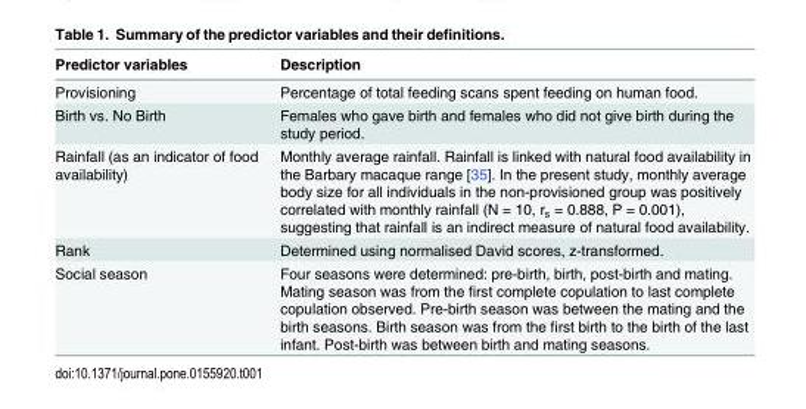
<table><thead><tr><td>Predictor variables</td><td>Description</td></tr></thead><tbody><tr><td>Provisioning</td><td>Percentage of total feeding scans spent feeding on human food.</td></tr><tr><td>Birth vs. No Birth</td><td>Females who gave birth and females who did not give birth during the study period.</td></tr><tr><td>Rainfall (as an indicator of food availability)</td><td>Monthly average rainfall. Rainfall is linked with natural food availability in the Barbary macaque range [35]. In the present study, monthly average body size for all individuals in the non-provisioned group was positively correlated with monthly rainfall (N = 10, r<sub>s</sub> = 0.888, P = 0.001), suggesting that rainfall is an indirect measure of natural food availability.</td></tr><tr><td>Rank</td><td>Determined using normalised David scores, z-transformed.</td></tr><tr><td>Social season</td><td>Four seasons were determined: pre-birth, birth, post-birth and mating. Mating season was from the first complete copulation to last complete copulation observed. Pre-birth season was between the mating and the birth seasons. Birth season was from the first birth to the birth of the last infant. Post-birth was between birth and mating seasons.</td></tr></tbody></table>